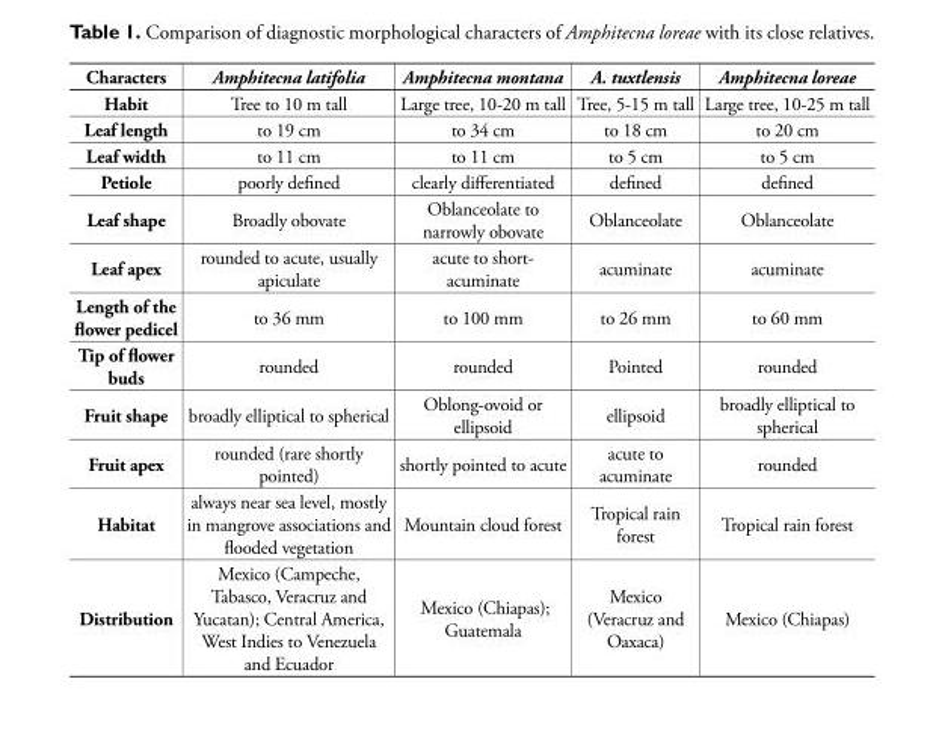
<table><thead><tr><td>Characters</td><td>Amphitecna latifolia</td><td>Amphitecna montana</td><td>A. tuxtlensis</td><td>Amphitecna loreae</td></tr></thead><tbody><tr><td>Habit</td><td>Tree to 10 m tall</td><td>Large tree, 10-20 m tall</td><td>Tree, 5-15 m tall</td><td>Large tree, 10-25 m tall</td></tr><tr><td>Leaf length</td><td>to 19 cm</td><td>to 34 cm</td><td>to 18 cm</td><td>to 20 cm</td></tr><tr><td>Leaf width</td><td>to 11 cm</td><td>to 11 cm</td><td>to 5 cm</td><td>to 5 cm</td></tr><tr><td>Petiole</td><td>poorly defi ned</td><td>clearly diff erentiated</td><td>defi ned</td><td>defi ned</td></tr><tr><td>Leaf shape</td><td>Broadly obovate</td><td>Oblanceolate to narrowly obovate</td><td>Oblanceolate</td><td>Oblanceolate</td></tr><tr><td>Leaf apex</td><td>rounded to acute, usually apiculate</td><td>acute to short- acuminate</td><td>acuminate</td><td>acuminate</td></tr><tr><td>Length of the fl ower pedicel</td><td>to 36 mm</td><td>to 100 mm</td><td>to 26 mm</td><td>to 60 mm</td></tr><tr><td>Tip of fl ower buds</td><td>rounded</td><td>rounded</td><td>Pointed</td><td>rounded</td></tr><tr><td>Fruit shape</td><td>broadly elliptical to spherical</td><td>Oblong-ovoid or ellipsoid</td><td>ellipsoid</td><td>broadly elliptical to spherical</td></tr><tr><td>Fruit apex</td><td>rounded (rare shortly pointed)</td><td>shortly pointed to acute</td><td>acute to acuminate</td><td>rounded</td></tr><tr><td>Habitat</td><td>always near sea level, mostly in mangrove associations and fl ooded vegetation</td><td>Mountain cloud forest</td><td>Tropical rain forest</td><td>Tropical rain forest</td></tr><tr><td>Distribution</td><td>Mexico (Campeche, Tabasco, Veracruz and Yucatan); Central America, West Indies to Venezuela and Ecuador</td><td>Mexico (Chiapas); Guatemala</td><td>Mexico (Veracruz and Oaxaca)</td><td>Mexico (Chiapas)</td></tr></tbody></table>